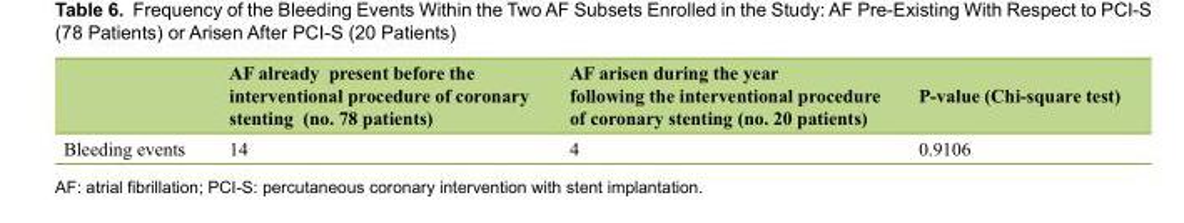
<table><thead><tr><td></td><td>AF already present before the interventional procedure of coronary stenting (no. 78 patients)</td><td>AF arisen during the year following the interventional procedure of coronary stenting (no. 20 patients)</td><td>P-value (Chi-square test)</td></tr></thead><tbody><tr><td>Bleeding events</td><td>14</td><td>4</td><td>0.9106</td></tr></tbody></table>